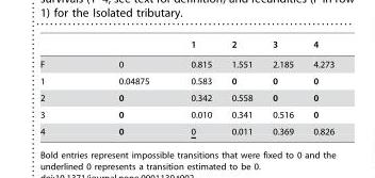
<table><thead><tr><td></td><td></td><td>1</td><td>2</td><td>3</td><td>4</td></tr></thead><tbody><tr><td>F</td><td>0</td><td>0.815</td><td>1.551</td><td>2.185</td><td>4.273</td></tr><tr><td>1</td><td>0.04875</td><td>0.583</td><td>0</td><td>0</td><td>0</td></tr><tr><td>2</td><td>0</td><td>0.342</td><td>0.558</td><td>0</td><td>0</td></tr><tr><td>3</td><td>0</td><td>0.010</td><td>0.341</td><td>0.516</td><td>0</td></tr><tr><td>4</td><td>0</td><td>0</td><td>0.011</td><td>0.369</td><td>0.826</td></tr></tbody></table>